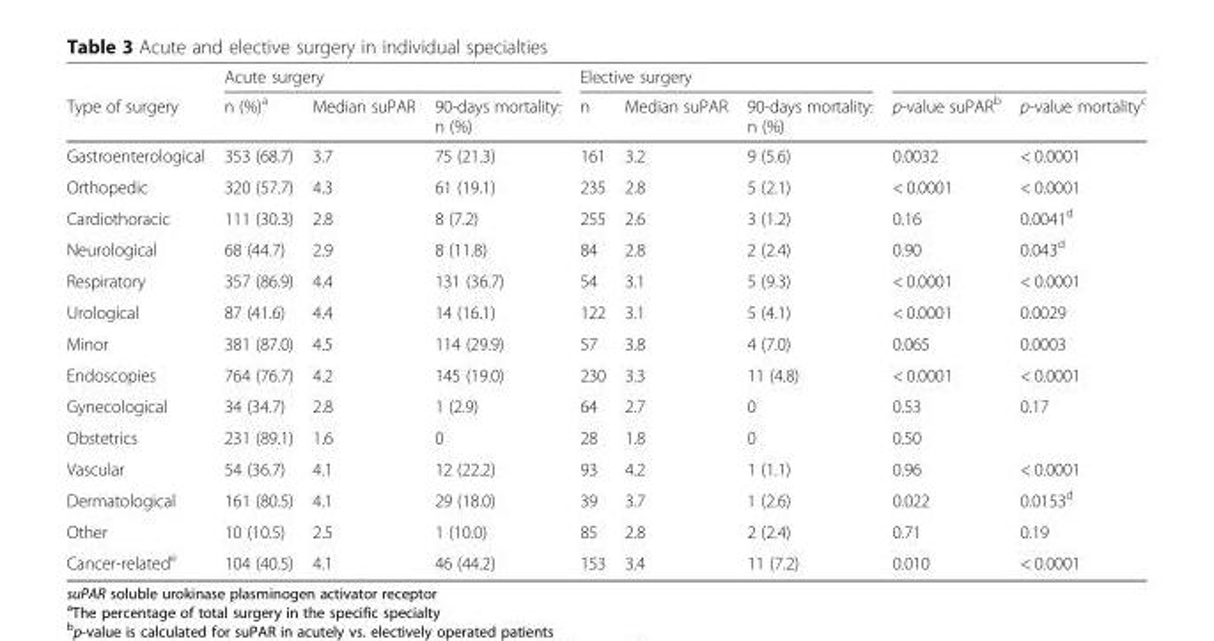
<table><thead><tr><td rowspan="2">Type of surgery</td><td colspan="3">Acute surgery</td><td colspan="3">Elective surgery</td><td rowspan="2">p-value suPAR<sup>b</sup></td><td rowspan="2">p-value mortality<sup>c</sup></td></tr><tr><td>n (%)<sup>a</sup></td><td>Median suPAR</td><td>90-days mortality: n (%)</td><td>n</td><td>Median suPAR</td><td>90-days mortality: n (%)</td></tr></thead><tbody><tr><td>Gastroenterological</td><td>353 (68.7)</td><td>3.7</td><td>75 (21.3)</td><td>161</td><td>3.2</td><td>9 (5.6)</td><td>0.0032</td><td>&lt; 0.0001</td></tr><tr><td>Orthopedic</td><td>320 (57.7)</td><td>4.3</td><td>61 (19.1)</td><td>235</td><td>2.8</td><td>5 (2.1)</td><td>&lt; 0.0001</td><td>&lt; 0.0001</td></tr><tr><td>Cardiothoracic</td><td>111 (30.3)</td><td>2.8</td><td>8 (7.2)</td><td>255</td><td>2.6</td><td>3 (1.2)</td><td>0.16</td><td>0.0041<sup>d</sup></td></tr><tr><td>Neurological</td><td>68 (44.7)</td><td>2.9</td><td>8 (11.8)</td><td>84</td><td>2.8</td><td>2 (2.4)</td><td>0.90</td><td>0.043<sup>d</sup></td></tr><tr><td>Respiratory</td><td>357 (86.9)</td><td>4.4</td><td>131 (36.7)</td><td>54</td><td>3.1</td><td>5 (9.3)</td><td>&lt; 0.0001</td><td>&lt; 0.0001</td></tr><tr><td>Urological</td><td>87 (41.6)</td><td>4.4</td><td>14 (16.1)</td><td>122</td><td>3.1</td><td>5 (4.1)</td><td>&lt; 0.0001</td><td>0.0029</td></tr><tr><td>Minor</td><td>381 (87.0)</td><td>4.5</td><td>114 (29.9)</td><td>57</td><td>3.8</td><td>4 (7.0)</td><td>0.065</td><td>0.0003</td></tr><tr><td>Endoscopies</td><td>764 (76.7)</td><td>4.2</td><td>145 (19.0)</td><td>230</td><td>3.3</td><td>11 (4.8)</td><td>&lt; 0.0001</td><td>&lt; 0.0001</td></tr><tr><td>Gynecological</td><td>34 (34.7)</td><td>2.8</td><td>1 (2.9)</td><td>64</td><td>2.7</td><td>0</td><td>0.53</td><td>0.17</td></tr><tr><td>Obstetrics</td><td>231 (89.1)</td><td>1.6</td><td>0</td><td>28</td><td>1.8</td><td>0</td><td>0.50</td><td></td></tr><tr><td>Vascular</td><td>54 (36.7)</td><td>4.1</td><td>12 (22.2)</td><td>93</td><td>4.2</td><td>1 (1.1)</td><td>0.96</td><td>&lt; 0.0001</td></tr><tr><td>Dermatological</td><td>161 (80.5)</td><td>4.1</td><td>29 (18.0)</td><td>39</td><td>3.7</td><td>1 (2.6)</td><td>0.022</td><td>0.0153<sup>d</sup></td></tr><tr><td>Other</td><td>10 (10.5)</td><td>2.5</td><td>1 (10.0)</td><td>85</td><td>2.8</td><td>2 (2.4)</td><td>0.71</td><td>0.19</td></tr><tr><td>Cancer-related<sup>e</sup></td><td>104 (40.5)</td><td>4.1</td><td>46 (44.2)</td><td>153</td><td>3.4</td><td>11 (7.2)</td><td>0.010</td><td>&lt; 0.0001</td></tr></tbody></table>